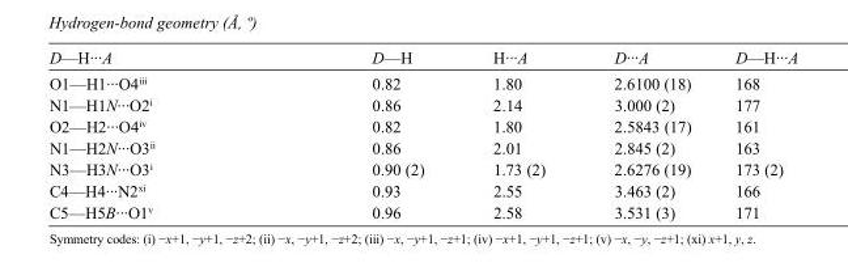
<table><tbody><tr><td>D—H···A</td><td>D—H</td><td>H···A</td><td>D···A</td><td>D—H···A</td></tr><tr><td>O1—H1···O4<sup>iii</sup></td><td>0.82</td><td>1.80</td><td>2.6100 (18)</td><td>168</td></tr><tr><td>N1—H1N···O2<sup>i</sup></td><td>0.86</td><td>2.14</td><td>3.000 (2)</td><td>177</td></tr><tr><td>O2—H2···O4<sup>iv</sup></td><td>0.82</td><td>1.80</td><td>2.5843 (17)</td><td>161</td></tr><tr><td>N1—H2N···O3<sup>ii</sup></td><td>0.86</td><td>2.01</td><td>2.845 (2)</td><td>163</td></tr><tr><td>N3—H3N···O3<sup>i</sup></td><td>0.90 (2)</td><td>1.73 (2)</td><td>2.6276 (19)</td><td>173 (2)</td></tr><tr><td>C4—H4···N2<sup>xi</sup></td><td>0.93</td><td>2.55</td><td>3.463 (2)</td><td>166</td></tr><tr><td>C5—H5B···O1<sup>v</sup></td><td>0.96</td><td>2.58</td><td>3.531 (3)</td><td>171</td></tr></tbody></table>